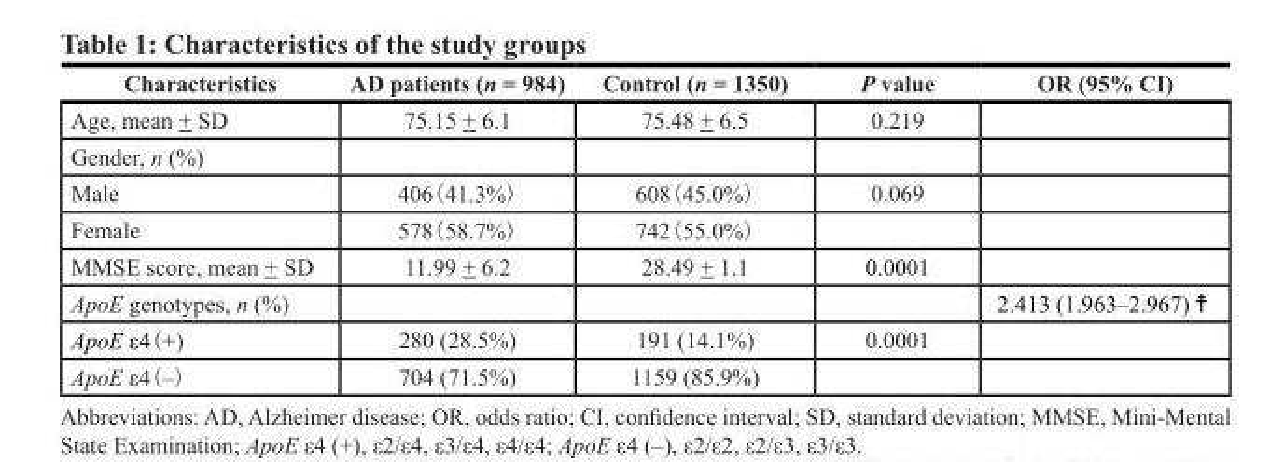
<table><thead><tr><td>Characteristics</td><td>AD patients (n = 984)</td><td>Control (n = 1350)</td><td>P value</td><td>OR (95% CI)</td></tr></thead><tbody><tr><td>Age, mean + SD</td><td>75.15 + 6.1</td><td>75.48 + 6.5</td><td>0.219</td><td></td></tr><tr><td colspan="5">Gender, n (%)</td></tr><tr><td>Male</td><td>406(41.3%)</td><td>608(45.0%)</td><td>0.069</td><td></td></tr><tr><td>Female</td><td>578(58.7%)</td><td>742(55.0%)</td><td></td><td></td></tr><tr><td>MMSE score, mean + SD</td><td>11.99 + 6.2</td><td>28.49 + 1.1</td><td>0.0001</td><td></td></tr><tr><td>ApoE genotypes, n (%)</td><td></td><td></td><td></td><td>2.413 (1.963–2.967)☨</td></tr><tr><td>ApoE ε4(+)</td><td>280 (28.5%)</td><td>191 (14.1%)</td><td>0.0001</td><td></td></tr><tr><td>ApoE ε4(–)</td><td>704 (71.5%)</td><td>1159 (85.9%)</td><td></td><td></td></tr></tbody></table>